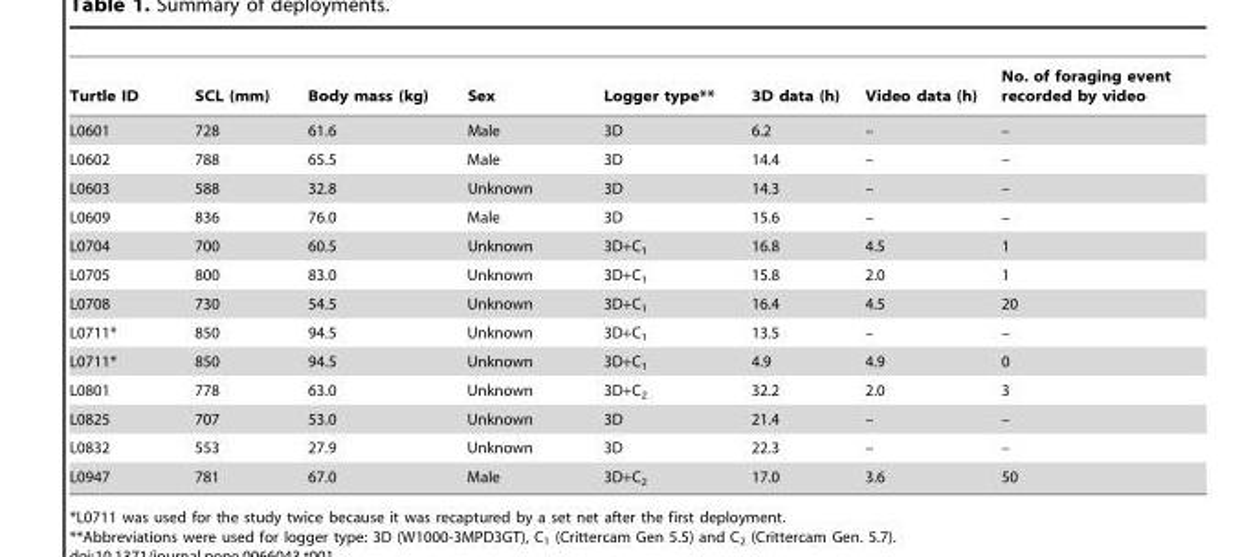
<table><thead><tr><td>Turtle ID</td><td>SCL (mm)</td><td>Body mass (kg)</td><td>Sex</td><td>Logger type**</td><td>3D data (h)</td><td>Video data (h)</td><td>No. of foraging event recorded by video</td></tr></thead><tbody><tr><td>L0601</td><td>728</td><td>61.6</td><td>Male</td><td>3D</td><td>6.2</td><td>–</td><td>–</td></tr><tr><td>L0602</td><td>788</td><td>65.5</td><td>Male</td><td>3D</td><td>14.4</td><td>–</td><td>–</td></tr><tr><td>L0603</td><td>588</td><td>32.8</td><td>Unknown</td><td>3D</td><td>14.3</td><td>–</td><td>–</td></tr><tr><td>L0609</td><td>836</td><td>76.0</td><td>Male</td><td>3D</td><td>15.6</td><td>–</td><td>–</td></tr><tr><td>L0704</td><td>700</td><td>60.5</td><td>Unknown</td><td>3D+C<sub>1</sub></td><td>16.8</td><td>4.5</td><td>1</td></tr><tr><td>L0705</td><td>800</td><td>83.0</td><td>Unknown</td><td>3D+C<sub>1</sub></td><td>15.8</td><td>2.0</td><td>1</td></tr><tr><td>L0708</td><td>730</td><td>54.5</td><td>Unknown</td><td>3D+C<sub>1</sub></td><td>16.4</td><td>4.5</td><td>20</td></tr><tr><td>L0711*</td><td>850</td><td>94.5</td><td>Unknown</td><td>3D+C<sub>1</sub></td><td>13.5</td><td>–</td><td>–</td></tr><tr><td>L0711*</td><td>850</td><td>94.5</td><td>Unknown</td><td>3D+C<sub>1</sub></td><td>4.9</td><td>4.9</td><td>0</td></tr><tr><td>L0801</td><td>778</td><td>63.0</td><td>Unknown</td><td>3D+C<sub>2</sub></td><td>32.2</td><td>2.0</td><td>3</td></tr><tr><td>L0825</td><td>707</td><td>53.0</td><td>Unknown</td><td>3D</td><td>21.4</td><td>–</td><td>–</td></tr><tr><td>L0832</td><td>553</td><td>27.9</td><td>Unknown</td><td>3D</td><td>22.3</td><td>–</td><td>–</td></tr><tr><td>L0947</td><td>781</td><td>67.0</td><td>Male</td><td>3D+C<sub>2</sub></td><td>17.0</td><td>3.6</td><td>50</td></tr></tbody></table>